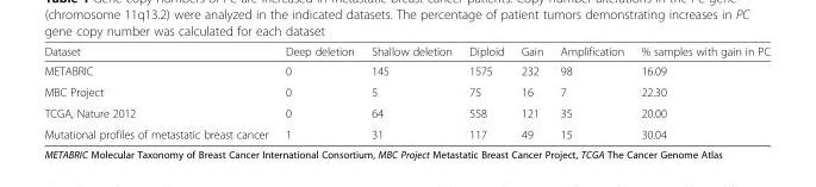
<table><thead><tr><td>Dataset</td><td>Deep deletion</td><td>Shallow deletion</td><td>Diploid</td><td>Gain</td><td>Amplification</td><td>% samples with gain in PC</td></tr></thead><tbody><tr><td>METABRIC</td><td>0</td><td>145</td><td>1575</td><td>232</td><td>98</td><td>16.09</td></tr><tr><td>MBC Project</td><td>0</td><td>5</td><td>75</td><td>16</td><td>7</td><td>22.30</td></tr><tr><td>TCGA, Nature 2012</td><td>0</td><td>64</td><td>558</td><td>121</td><td>35</td><td>20.00</td></tr><tr><td>Mutational profiles of metastatic breast cancer</td><td>1</td><td>31</td><td>117</td><td>49</td><td>15</td><td>30.04</td></tr></tbody></table>